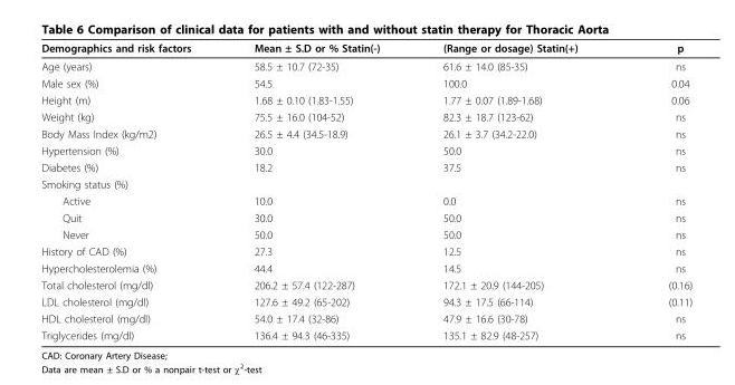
<table><thead><tr><td>Demographics and risk factors</td><td>Mean ± S.D or % Statin(-)</td><td>(Range or dosage) Statin(+)</td><td>p</td></tr></thead><tbody><tr><td>Age (years)</td><td>58.5 ± 10.7 (72-35)</td><td>61.6 ± 14.0 (85-35)</td><td>ns</td></tr><tr><td>Male sex (%)</td><td>54.5</td><td>100.0</td><td>0.04</td></tr><tr><td>Height (m)</td><td>1.68 ± 0.10 (1.83-1.55)</td><td>1.77 ± 0.07 (1.89-1.68)</td><td>0.06</td></tr><tr><td>Weight (kg)</td><td>75.5 ± 16.0 (104-52)</td><td>82.3 ± 18.7 (123-62)</td><td>ns</td></tr><tr><td>Body Mass Index (kg/m2)</td><td>26.5 ± 4.4 (34.5-18.9)</td><td>26.1 ± 3.7 (34.2-22.0)</td><td>ns</td></tr><tr><td>Hypertension (%)</td><td>30.0</td><td>50.0</td><td>ns</td></tr><tr><td>Diabetes (%)</td><td>18.2</td><td>37.5</td><td>ns</td></tr><tr><td colspan="4">Smoking status (%)</td></tr><tr><td>Active</td><td>10.0</td><td>0.0</td><td>ns</td></tr><tr><td>Quit</td><td>30.0</td><td>50.0</td><td>ns</td></tr><tr><td>Never</td><td>50.0</td><td>50.0</td><td>ns</td></tr><tr><td>History of CAD (%)</td><td>27.3</td><td>12.5</td><td>ns</td></tr><tr><td>Hypercholesterolemia (%)</td><td>44.4</td><td>14.5</td><td>ns</td></tr><tr><td>Total cholesterol (mg/dl)</td><td>206.2 ± 57.4 (122-287)</td><td>172.1 ± 20.9 (144-205)</td><td>(0.16)</td></tr><tr><td>LDL cholesterol (mg/dl)</td><td>127.6 ± 49.2 (65-202)</td><td>94.3 ± 17.5 (66-114)</td><td>(0.11)</td></tr><tr><td>HDL cholesterol (mg/dl)</td><td>54.0 ± 17.4 (32-86)</td><td>47.9 ± 16.6 (30-78)</td><td>ns</td></tr><tr><td>Triglycerides (mg/dl)</td><td>136.4 ± 94.3 (46-335)</td><td>135.1 ± 82.9 (48-257)</td><td>ns</td></tr></tbody></table>